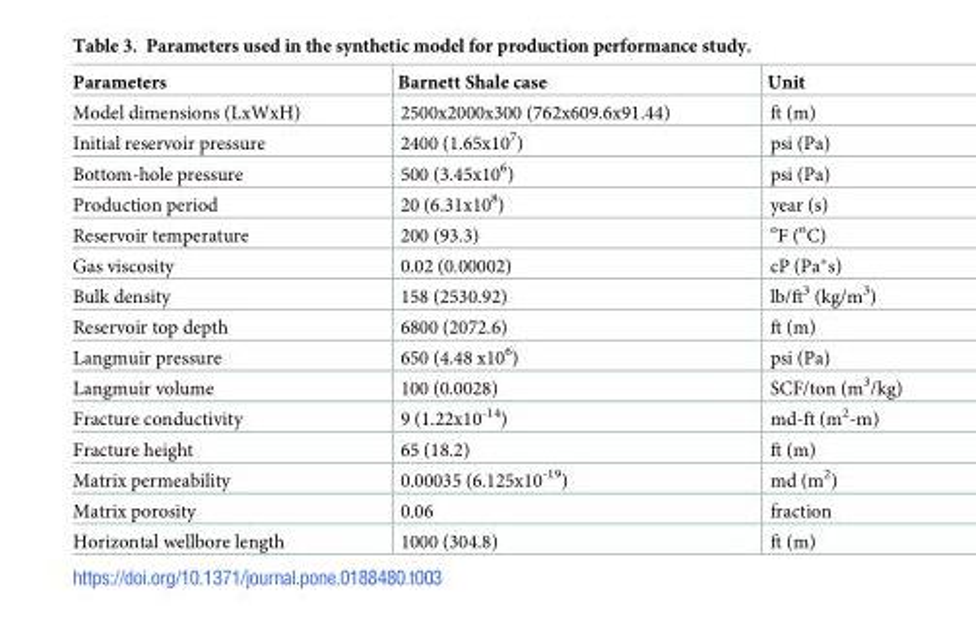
<table><thead><tr><td>Parameters</td><td>Barnett Shale case</td><td>Unit</td></tr></thead><tbody><tr><td>Model dimensions (LxWxH)</td><td>2500x2000x300 (762x609.6x91.44)</td><td>ft (m)</td></tr><tr><td>Initial reservoir pressure</td><td>2400 (1.65x10<sup>7</sup>)</td><td>psi (Pa)</td></tr><tr><td>Bottom-hole pressure</td><td>500 (3.45x10<sup>6</sup>)</td><td>psi (Pa)</td></tr><tr><td>Production period</td><td>20 (6.31x10<sup>8</sup>)</td><td>year (s)</td></tr><tr><td>Reservoir temperature</td><td>200 (93.3)</td><td><sup>o</sup>F (<sup>o</sup>C)</td></tr><tr><td>Gas viscosity</td><td>0.02 (0.00002)</td><td>cP (Pa*s)</td></tr><tr><td>Bulk density</td><td>158 (2530.92)</td><td>lb/ft<sup>3</sup> (kg/m<sup>3</sup>)</td></tr><tr><td>Reservoir top depth</td><td>6800 (2072.6)</td><td>ft (m)</td></tr><tr><td>Langmuir pressure</td><td>650 (4.48 x10<sup>6</sup>)</td><td>psi (Pa)</td></tr><tr><td>Langmuir volume</td><td>100 (0.0028)</td><td>SCF/ton (m<sup>3</sup>/kg)</td></tr><tr><td>Fracture conductivity</td><td>9 (1.22x10<sup>-14</sup>)</td><td>md-ft (m<sup>2</sup>-m)</td></tr><tr><td>Fracture height</td><td>65 (18.2)</td><td>ft (m)</td></tr><tr><td>Matrix permeability</td><td>0.00035 (6.125x10<sup>-19</sup>)</td><td>md (m<sup>2</sup>)</td></tr><tr><td>Matrix porosity</td><td>0.06</td><td>fraction</td></tr><tr><td>Horizontal wellbore length</td><td>1000 (304.8)</td><td>ft (m)</td></tr></tbody></table>